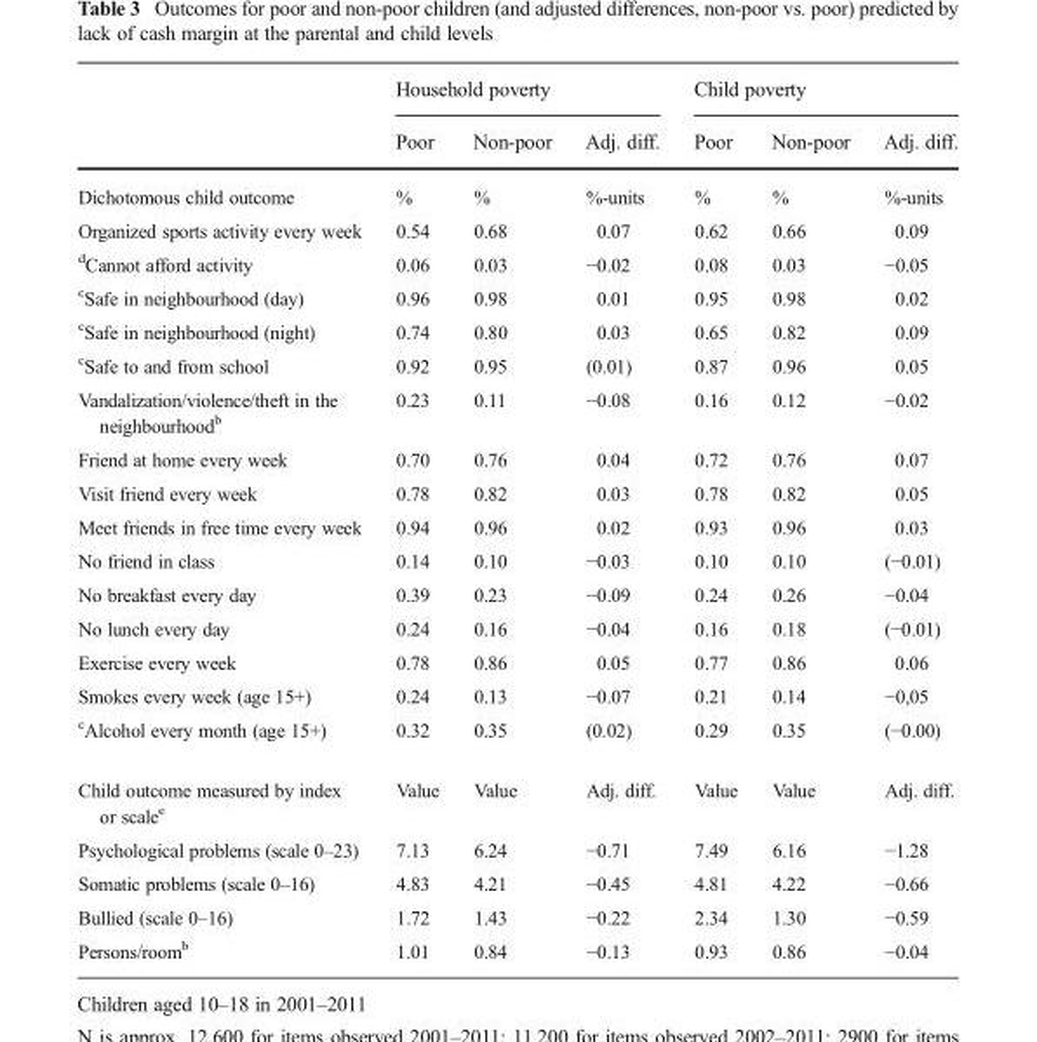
<table><thead><tr><td rowspan="2"></td><td colspan="3">Household poverty</td><td colspan="3">Child poverty</td></tr><tr><td>Poor</td><td>Non-poor</td><td>Adj. diff.</td><td>Poor</td><td>Non-poor</td><td>Adj. diff.</td></tr></thead><tbody><tr><td>Dichotomous child outcome</td><td>%</td><td>%</td><td>%-units</td><td>%</td><td>%</td><td>%-units</td></tr><tr><td>Organized sports activity every week</td><td>0.54</td><td>0.68</td><td>0.07</td><td>0.62</td><td>0.66</td><td>0.09</td></tr><tr><td><sup>d</sup>Cannot afford activity</td><td>0.06</td><td>0.03</td><td>−0.02</td><td>0.08</td><td>0.03</td><td>−0.05</td></tr><tr><td><sup>c</sup>Safe in neighbourhood (day)</td><td>0.96</td><td>0.98</td><td>0.01</td><td>0.95</td><td>0.98</td><td>0.02</td></tr><tr><td><sup>c</sup>Safe in neighbourhood (night)</td><td>0.74</td><td>0.80</td><td>0.03</td><td>0.65</td><td>0.82</td><td>0.09</td></tr><tr><td><sup>c</sup>Safe to and from school</td><td>0.92</td><td>0.95</td><td>(0.01)</td><td>0.87</td><td>0.96</td><td>0.05</td></tr><tr><td>Vandalization/violence/theft in the neighbourhood<sup>b</sup></td><td>0.23</td><td>0.11</td><td>−0.08</td><td>0.16</td><td>0.12</td><td>−0.02</td></tr><tr><td>Friend at home every week</td><td>0.70</td><td>0.76</td><td>0.04</td><td>0.72</td><td>0.76</td><td>0.07</td></tr><tr><td>Visit friend every week</td><td>0.78</td><td>0.82</td><td>0.03</td><td>0.78</td><td>0.82</td><td>0.05</td></tr><tr><td>Meet friends in free time every week</td><td>0.94</td><td>0.96</td><td>0.02</td><td>0.93</td><td>0.96</td><td>0.03</td></tr><tr><td>No friend in class</td><td>0.14</td><td>0.10</td><td>−0.03</td><td>0.10</td><td>0.10</td><td>(−0.01)</td></tr><tr><td>No breakfast every day</td><td>0.39</td><td>0.23</td><td>−0.09</td><td>0.24</td><td>0.26</td><td>−0.04</td></tr><tr><td>No lunch every day</td><td>0.24</td><td>0.16</td><td>−0.04</td><td>0.16</td><td>0.18</td><td>(−0.01)</td></tr><tr><td>Exercise every week</td><td>0.78</td><td>0.86</td><td>0.05</td><td>0.77</td><td>0.86</td><td>0.06</td></tr><tr><td>Smokes every week (age 15+)</td><td>0.24</td><td>0.13</td><td>−0.07</td><td>0.21</td><td>0.14</td><td>−0,05</td></tr><tr><td><sup>c</sup>Alcohol every month (age 15+)</td><td>0.32</td><td>0.35</td><td>(0.02)</td><td>0.29</td><td>0.35</td><td>(−0.00)</td></tr><tr><td>Child outcome measured by index or scale<sup>e</sup></td><td>Value</td><td>Value</td><td>Adj. diff.</td><td>Value</td><td>Value</td><td>Adj. diff.</td></tr><tr><td>Psychological problems (scale 0–23)</td><td>7.13</td><td>6.24</td><td>−0.71</td><td>7.49</td><td>6.16</td><td>−1.28</td></tr><tr><td>Somatic problems (scale 0–16)</td><td>4.83</td><td>4.21</td><td>−0.45</td><td>4.81</td><td>4.22</td><td>−0.66</td></tr><tr><td>Bullied (scale 0–16)</td><td>1.72</td><td>1.43</td><td>−0.22</td><td>2.34</td><td>1.30</td><td>−0.59</td></tr><tr><td>Persons/room<sup>b</sup></td><td>1.01</td><td>0.84</td><td>−0.13</td><td>0.93</td><td>0.86</td><td>−0.04</td></tr></tbody></table>